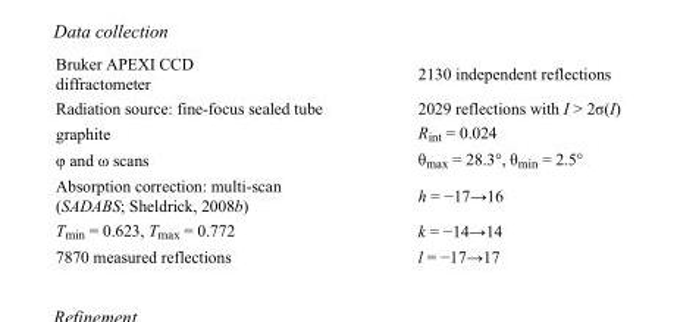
<table><tbody><tr><td>Bruker APEXI CCD diffractometer</td><td>2130 independent reflections</td></tr><tr><td>Radiation source: fine-focus sealed tube</td><td>2029 reflections with I &gt; 2σ(I)</td></tr><tr><td>graphite</td><td>R<sub>int</sub> = 0.024</td></tr><tr><td>φ and ω scans</td><td>θ<sub>max</sub> = 28.3°, θ<sub>min</sub> = 2.5°</td></tr><tr><td>Absorption correction: multi-scan (SADABS; Sheldrick, 2008b)</td><td>h = −17→16</td></tr><tr><td>T<sub>min</sub> = 0.623, T<sub>max</sub> = 0.772</td><td>k = −14→14</td></tr><tr><td>7870 measured reflections</td><td>l = −17→17</td></tr></tbody></table>